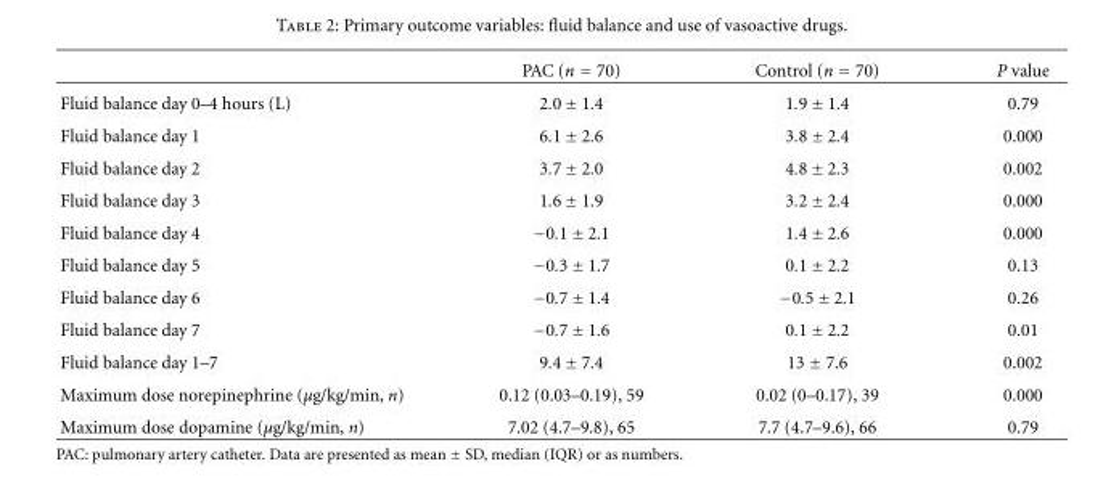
<table><thead><tr><td></td><td>PAC (n = 70)</td><td>Control (n = 70)</td><td>P value</td></tr></thead><tbody><tr><td>Fluid balance day 0–4 hours (L)</td><td>2.0 ± 1.4</td><td>1.9 ± 1.4</td><td>0.79</td></tr><tr><td>Fluid balance day 1</td><td>6.1 ± 2.6</td><td>3.8 ± 2.4</td><td>0.000</td></tr><tr><td>Fluid balance day 2</td><td>3.7 ± 2.0</td><td>4.8 ± 2.3</td><td>0.002</td></tr><tr><td>Fluid balance day 3</td><td>1.6 ± 1.9</td><td>3.2 ± 2.4</td><td>0.000</td></tr><tr><td>Fluid balance day 4</td><td>−0.1 ± 2.1</td><td>1.4 ± 2.6</td><td>0.000</td></tr><tr><td>Fluid balance day 5</td><td>−0.3 ± 1.7</td><td>0.1 ± 2.2</td><td>0.13</td></tr><tr><td>Fluid balance day 6</td><td>−0.7 ± 1.4</td><td>−0.5 ± 2.1</td><td>0.26</td></tr><tr><td>Fluid balance day 7</td><td>−0.7 ± 1.6</td><td>0.1 ± 2.2</td><td>0.01</td></tr><tr><td>Fluid balance day 1–7</td><td>9.4 ± 7.4</td><td>13 ± 7.6</td><td>0.002</td></tr><tr><td>Maximum dose norepinephrine (μg/kg/min, n)</td><td>0.12 (0.03–0.19), 59</td><td>0.02 (0–0.17), 39</td><td>0.000</td></tr><tr><td>Maximum dose dopamine (μg/kg/min, n)</td><td>7.02 (4.7–9.8), 65</td><td>7.7 (4.7–9.6), 66</td><td>0.79</td></tr></tbody></table>